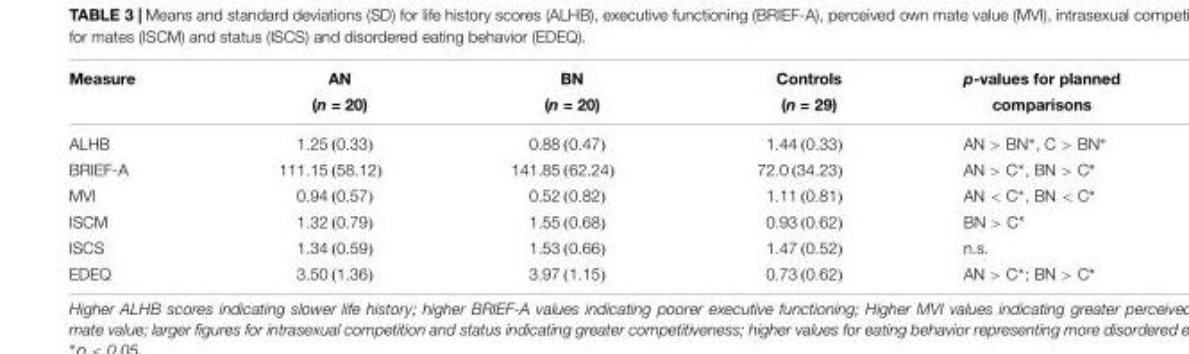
<table><thead><tr><td>Measure</td><td>AN (n = 20)</td><td>BN (n = 20)</td><td>Controls (n = 29)</td><td>p-values for planned comparisons</td></tr></thead><tbody><tr><td>ALHB</td><td>1.25 (0.33)</td><td>0.88 (0.47)</td><td>1.44 (0.33)</td><td>AN &gt; BN∗, C &gt; BN∗</td></tr><tr><td>BRIEF-A</td><td>111.15 (58.12)</td><td>141.85 (62.24)</td><td>72.0 (34.23)</td><td>AN &gt; C∗, BN &gt; C∗</td></tr><tr><td>MVI</td><td>0.94 (0.57)</td><td>0.52 (0.82)</td><td>1.11 (0.81)</td><td>AN &lt; C∗, BN &lt; C∗</td></tr><tr><td>ISCM</td><td>1.32 (0.79)</td><td>1.55 (0.68)</td><td>0.93 (0.62)</td><td>BN &gt; C∗</td></tr><tr><td>ISCS</td><td>1.34 (0.59)</td><td>1.53 (0.66)</td><td>1.47 (0.52)</td><td>n.s.</td></tr><tr><td>EDEQ</td><td>3.50 (1.36)</td><td>3.97 (1.15)</td><td>0.73 (0.62)</td><td>AN &gt; C∗; BN &gt; C∗</td></tr></tbody></table>